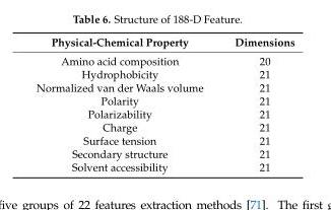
<table><thead><tr><td>Physical-Chemical Property</td><td>Dimensions</td></tr></thead><tbody><tr><td>Amino acid composition</td><td>20</td></tr><tr><td>Hydrophobicity</td><td>21</td></tr><tr><td>Normalized van der Waals volume</td><td>21</td></tr><tr><td>Polarity</td><td>21</td></tr><tr><td>Polarizability</td><td>21</td></tr><tr><td>Charge</td><td>21</td></tr><tr><td>Surface tension</td><td>21</td></tr><tr><td>Secondary structure</td><td>21</td></tr><tr><td>Solvent accessibility</td><td>21</td></tr></tbody></table>